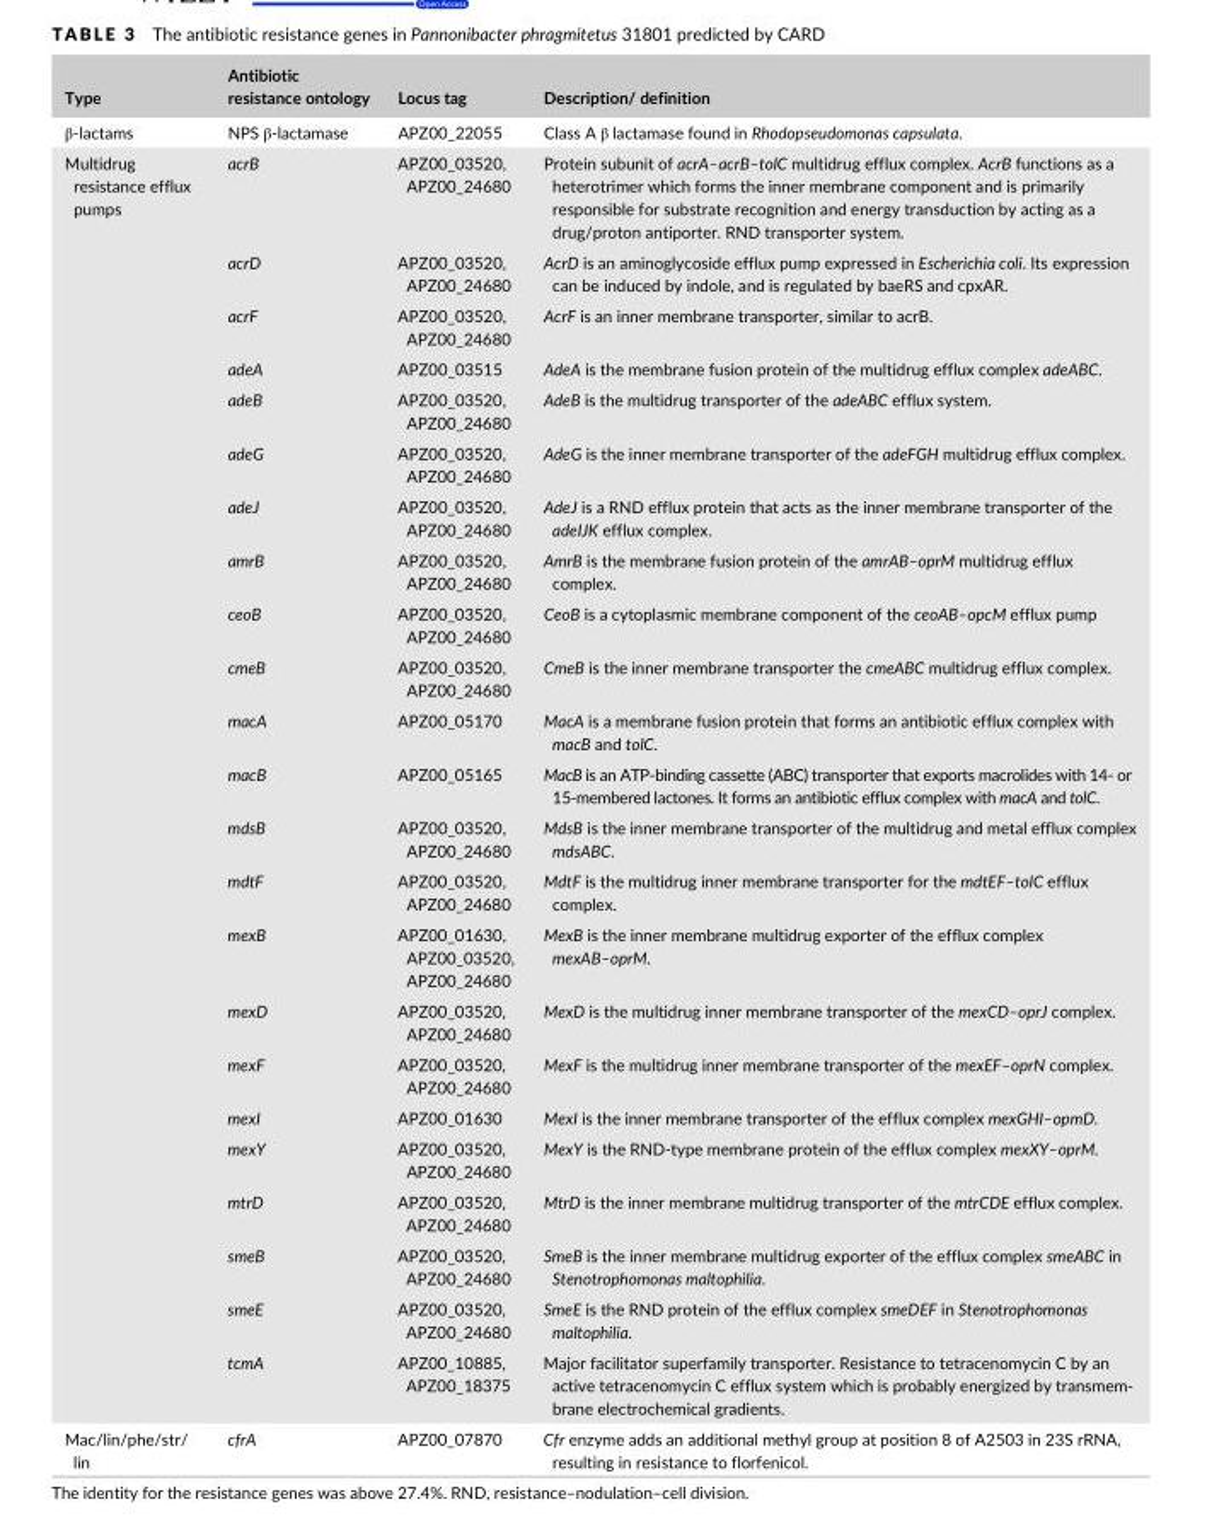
<table><thead><tr><td>Type</td><td>Antibiotic resistance ontology</td><td>Locus tag</td><td>Description/ definition</td></tr></thead><tbody><tr><td>β- lactams</td><td>NPS β- lactamase</td><td>APZ00_22055</td><td>Class A β lactamase found in Rhodopseudomonas capsulata.</td></tr><tr><td rowspan="23">Multidrug resistance efflux pumps</td><td>acrB</td><td>APZ00_03520, APZ00_24680</td><td>Protein subunit of acrA–acrB–tolC multidrug efflux complex. AcrB functions as a heterotrimer which forms the inner membrane component and is primarily responsible for substrate recognition and energy transduction by acting as a drug/proton antiporter. RND transporter system.</td></tr><tr><td>acrD</td><td>APZ00_03520, APZ00_24680</td><td>AcrD is an aminoglycoside efflux pump expressed in Escherichia coli. Its expression can be induced by indole, and is regulated by baeRS and cpxAR.</td></tr><tr><td>acrF</td><td>APZ00_03520, APZ00_24680</td><td>AcrF is an inner membrane transporter, similar to acrB.</td></tr><tr><td>adeA</td><td>APZ00_03515</td><td>AdeA is the membrane fusion protein of the multidrug efflux complex adeABC.</td></tr><tr><td>adeB</td><td>APZ00_03520, APZ00_24680</td><td>AdeB is the multidrug transporter of the adeABC efflux system.</td></tr><tr><td>adeG</td><td>APZ00_03520, APZ00_24680</td><td>AdeG is the inner membrane transporter of the adeFGH multidrug efflux complex.</td></tr><tr><td>adeJ</td><td>APZ00_03520, APZ00_24680</td><td>AdeJ is a RND efflux protein that acts as the inner membrane transporter of the adeIJK efflux complex.</td></tr><tr><td>amrB</td><td>APZ00_03520, APZ00_24680</td><td>AmrB is the membrane fusion protein of the amrAB–oprM multidrug efflux complex.</td></tr><tr><td>ceoB</td><td>APZ00_03520, APZ00_24680</td><td>CeoB is a cytoplasmic membrane component of the ceoAB–opcM efflux pump</td></tr><tr><td>cmeB</td><td>APZ00_03520, APZ00_24680</td><td>CmeB is the inner membrane transporter the cmeABC multidrug efflux complex.</td></tr><tr><td>macA</td><td>APZ00_05170</td><td>MacA is a membrane fusion protein that forms an antibiotic efflux complex with macB and tolC.</td></tr><tr><td>macB</td><td>APZ00_05165</td><td>MacB is an ATP- binding cassette (ABC) transporter that exports macrolides with 14- or 15- membered lactones. It forms an antibiotic efflux complex with macA and tolC.</td></tr><tr><td>mdsB</td><td>APZ00_03520, APZ00_24680</td><td>MdsB is the inner membrane transporter of the multidrug and metal efflux complex mdsABC.</td></tr><tr><td>mdtF</td><td>APZ00_03520, APZ00_24680</td><td>MdtF is the multidrug inner membrane transporter for the mdtEF–tolC efflux complex.</td></tr><tr><td>mexB</td><td>APZ00_01630, APZ00_03520, APZ00_24680</td><td>MexB is the inner membrane multidrug exporter of the efflux complex mexAB–oprM.</td></tr><tr><td>mexD</td><td>APZ00_03520, APZ00_24680</td><td>MexD is the multidrug inner membrane transporter of the mexCD–oprJ complex.</td></tr><tr><td>mexF</td><td>APZ00_03520, APZ00_24680</td><td>MexF is the multidrug inner membrane transporter of the mexEF–oprN complex.</td></tr><tr><td>mexI</td><td>APZ00_01630</td><td>MexI is the inner membrane transporter of the efflux complex mexGHI–opmD.</td></tr><tr><td>mexY</td><td>APZ00_03520, APZ00_24680</td><td>MexY is the RND- type membrane protein of the efflux complex mexXY–oprM.</td></tr><tr><td>mtrD</td><td>APZ00_03520, APZ00_24680</td><td>MtrD is the inner membrane multidrug transporter of the mtrCDE efflux complex.</td></tr><tr><td>smeB</td><td>APZ00_03520, APZ00_24680</td><td>SmeB is the inner membrane multidrug exporter of the efflux complex smeABC in Stenotrophomonas maltophilia.</td></tr><tr><td>smeE</td><td>APZ00_03520, APZ00_24680</td><td>SmeE is the RND protein of the efflux complex smeDEF in Stenotrophomonas maltophilia.</td></tr><tr><td>tcmA</td><td>APZ00_10885, APZ00_18375</td><td>Major facilitator superfamily transporter. Resistance to tetracenomycin C by an active tetracenomycin C efflux system which is probably energized by transmem- brane electrochemical gradients.</td></tr><tr><td>Mac/lin/phe/str/ lin</td><td>cfrA</td><td>APZ00_07870</td><td>Cfr enzyme adds an additional methyl group at position 8 of A2503 in 23S rRNA, resulting in resistance to florfenicol.</td></tr></tbody></table>